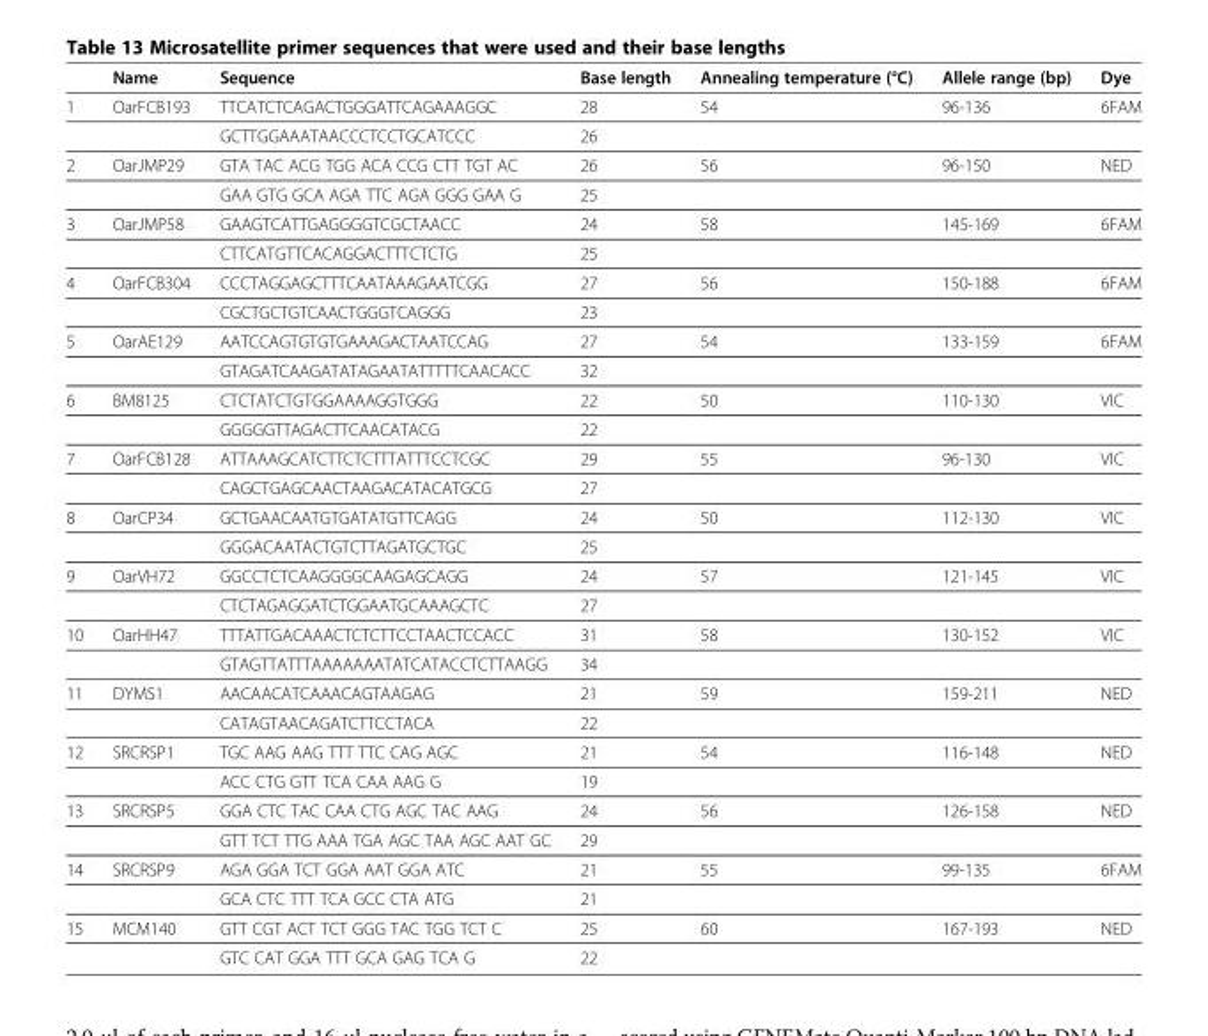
<table><thead><tr><td></td><td>Name</td><td>Sequence</td><td>Base length</td><td>Annealing temperature (°C)</td><td>Allele range (bp)</td><td>Dye</td></tr></thead><tbody><tr><td rowspan="2">1</td><td>OarFCB193</td><td>TTCATCTCAGACTGGGATTCAGAAAGGC</td><td>28</td><td>54</td><td>96-136</td><td>6FAM</td></tr><tr><td></td><td>GCTTGGAAATAACCCTCCTGCATCCC</td><td>26</td><td></td><td></td><td></td></tr><tr><td rowspan="2">2</td><td>OarJMP29</td><td>GTA TAC ACG TGG ACA CCG CTT TGT AC</td><td>26</td><td>56</td><td>96-150</td><td>NED</td></tr><tr><td></td><td>GAA GTG GCA AGA TTC AGA GGG GAA G</td><td>25</td><td></td><td></td><td></td></tr><tr><td rowspan="2">3</td><td>OarJMP58</td><td>GAAGTCATTGAGGGGTCGCTAACC</td><td>24</td><td>58</td><td>145-169</td><td>6FAM</td></tr><tr><td></td><td>CTTCATGTTCACAGGACTTTCTCTG</td><td>25</td><td></td><td></td><td></td></tr><tr><td rowspan="2">4</td><td>OarFCB304</td><td>CCCTAGGAGCTTTCAATAAAGAATCGG</td><td>27</td><td>56</td><td>150-188</td><td>6FAM</td></tr><tr><td></td><td>CGCTGCTGTCAACTGGGTCAGGG</td><td>23</td><td></td><td></td><td></td></tr><tr><td rowspan="2">5</td><td>OarAE129</td><td>AATCCAGTGTGTGAAAGACTAATCCAG</td><td>27</td><td>54</td><td>133-159</td><td>6FAM</td></tr><tr><td></td><td>GTAGATCAAGATATAGAATATTTTTCAACACC</td><td>32</td><td></td><td></td><td></td></tr><tr><td rowspan="2">6</td><td>BM8125</td><td>CTCTATCTGTGGAAAAGGTGGG</td><td>22</td><td>50</td><td>110-130</td><td>VIC</td></tr><tr><td></td><td>GGGGGTTAGACTTCAACATACG</td><td>22</td><td></td><td></td><td></td></tr><tr><td rowspan="2">7</td><td>OarFCB128</td><td>ATTAAAGCATCTTCTCTTTATTTCCTCGC</td><td>29</td><td>55</td><td>96-130</td><td>VIC</td></tr><tr><td></td><td>CAGCTGAGCAACTAAGACATACATGCG</td><td>27</td><td></td><td></td><td></td></tr><tr><td rowspan="2">8</td><td>OarCP34</td><td>GCTGAACAATGTGATATGTTCAGG</td><td>24</td><td>50</td><td>112-130</td><td>VIC</td></tr><tr><td></td><td>GGGACAATACTGTCTTAGATGCTGC</td><td>25</td><td></td><td></td><td></td></tr><tr><td rowspan="2">9</td><td>OarVH72</td><td>GGCCTCTCAAGGGGCAAGAGCAGG</td><td>24</td><td>57</td><td>121-145</td><td>VIC</td></tr><tr><td></td><td>CTCTAGAGGATCTGGAATGCAAAGCTC</td><td>27</td><td></td><td></td><td></td></tr><tr><td rowspan="2">10</td><td>OarHH47</td><td>TTTATTGACAAACTCTCTTCCTAACTCCACC</td><td>31</td><td>58</td><td>130-152</td><td>VIC</td></tr><tr><td></td><td>GTAGTTATTTAAAAAAATATCATACCTCTTAAGG</td><td>34</td><td></td><td></td><td></td></tr><tr><td rowspan="2">11</td><td>DYMS1</td><td>AACAACATCAAACAGTAAGAG</td><td>21</td><td>59</td><td>159-211</td><td>NED</td></tr><tr><td></td><td>CATAGTAACAGATCTTCCTACA</td><td>22</td><td></td><td></td><td></td></tr><tr><td rowspan="2">12</td><td>SRCRSP1</td><td>TGC AAG AAG TTT TTC CAG AGC</td><td>21</td><td>54</td><td>116-148</td><td>NED</td></tr><tr><td></td><td>ACC CTG GTT TCA CAA AAG G</td><td>19</td><td></td><td></td><td></td></tr><tr><td rowspan="2">13</td><td>SRCRSP5</td><td>GGA CTC TAC CAA CTG AGC TAC AAG</td><td>24</td><td>56</td><td>126-158</td><td>NED</td></tr><tr><td></td><td>GTT TCT TTG AAA TGA AGC TAA AGC AAT GC</td><td>29</td><td></td><td></td><td></td></tr><tr><td rowspan="2">14</td><td>SRCRSP9</td><td>AGA GGA TCT GGA AAT GGA ATC</td><td>21</td><td>55</td><td>99-135</td><td>6FAM</td></tr><tr><td></td><td>GCA CTC TTT TCA GCC CTA ATG</td><td>21</td><td></td><td></td><td></td></tr><tr><td rowspan="2">15</td><td>MCM140</td><td>GTT CGT ACT TCT GGG TAC TGG TCT C</td><td>25</td><td>60</td><td>167-193</td><td>NED</td></tr><tr><td></td><td>GTC CAT GGA TTT GCA GAG TCA G</td><td>22</td><td></td><td></td><td></td></tr></tbody></table>